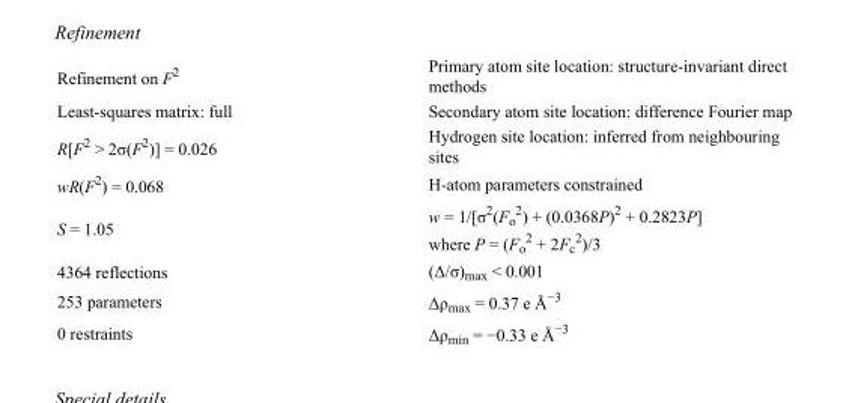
<table><tbody><tr><td>Refinement on F<sup>2</sup></td><td>Primary atom site location: structure-invariant direct methods</td></tr><tr><td>Least-squares matrix: full</td><td>Secondary atom site location: difference Fourier map</td></tr><tr><td>R[F<sup>2</sup> &gt; 2σ(F<sup>2</sup>)] = 0.026</td><td>Hydrogen site location: inferred from neighbouring sites</td></tr><tr><td>wR(F<sup>2</sup>) = 0.068</td><td>H-atom parameters constrained</td></tr><tr><td>S = 1.05</td><td>w = 1/[σ<sup>2</sup>(F<sub>o</sub> <sup>2</sup>) + (0.0368P)<sup>2</sup> + 0.2823P] where P = (F<sub>o</sub> <sup>2</sup> + 2F<sub>c</sub> <sup>2</sup>)/3</td></tr><tr><td>4364 reflections</td><td>(Δ/σ)<sub>max</sub> &lt; 0.001</td></tr><tr><td>253 parameters</td><td>Δρ<sub>max</sub> = 0.37 e Å<sup>−3</sup></td></tr><tr><td>0 restraints</td><td>Δρ<sub>min</sub> = −0.33 e Å<sup>−3</sup></td></tr></tbody></table>